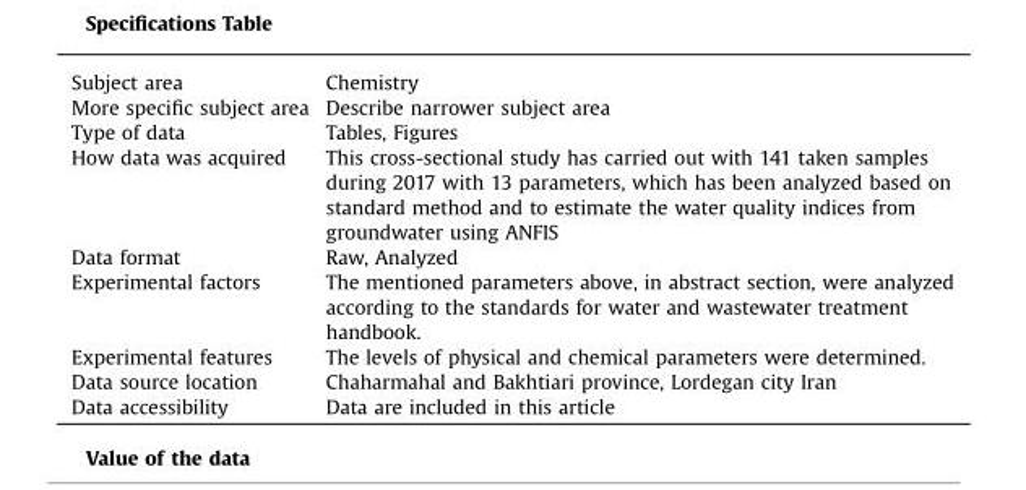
<table><tbody><tr><td>Subject area</td><td>Chemistry</td></tr><tr><td>More specific subject area</td><td>Describe narrower subject area</td></tr><tr><td>Type of data</td><td>Tables, Figures</td></tr><tr><td>How data was acquired</td><td>This cross-sectional study has carried out with 141 taken samples during 2017 with 13 parameters, which has been analyzed based on standard method and to estimate the water quality indices from groundwater using ANFIS</td></tr><tr><td>Data format</td><td>Raw, Analyzed</td></tr><tr><td>Experimental factors</td><td>The mentioned parameters above, in abstract section, were analyzed according to the standards for water and wastewater treatment handbook.</td></tr><tr><td>Experimental features</td><td>The levels of physical and chemical parameters were determined.</td></tr><tr><td>Data source location</td><td>Chaharmahal and Bakhtiari province, Lordegan city Iran</td></tr><tr><td>Data accessibility</td><td>Data are included in this article</td></tr></tbody></table>